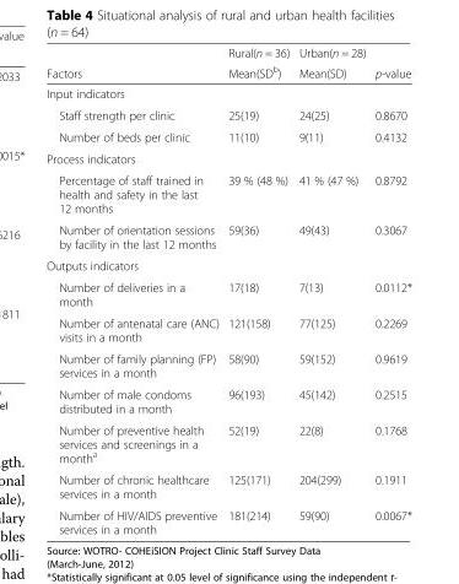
<table><thead><tr><td rowspan="2">Factors</td><td rowspan="2">Rural(n = 36) Mean(SD<sup>b</sup>)</td><td rowspan="2">Urban(n = 28) Mean(SD)</td><td rowspan="2">p-value</td></tr><tr></tr></thead><tbody><tr><td colspan="4">Input indicators</td></tr><tr><td>Staff strength per clinic</td><td>25(19)</td><td>24(25)</td><td>0.8670</td></tr><tr><td>Number of beds per clinic</td><td>11(10)</td><td>9(11)</td><td>0.4132</td></tr><tr><td colspan="4">Process indicators</td></tr><tr><td>Percentage of staff trained in health and safety in the last 12 months</td><td>39 % (48 %)</td><td>41 % (47 %)</td><td>0.8792</td></tr><tr><td>Number of orientation sessions by facility in the last 12 months</td><td>59(36)</td><td>49(43)</td><td>0.3067</td></tr><tr><td colspan="4">Outputs indicators</td></tr><tr><td>Number of deliveries in a month</td><td>17(18)</td><td>7(13)</td><td>0.0112*</td></tr><tr><td>Number of antenatal care (ANC) visits in a month</td><td>121(158)</td><td>77(125)</td><td>0.2269</td></tr><tr><td>Number of family planning (FP) services in a month</td><td>58(90)</td><td>59(152)</td><td>0.9619</td></tr><tr><td>Number of male condoms distributed in a month</td><td>96(193)</td><td>45(142)</td><td>0.2515</td></tr><tr><td>Number of preventive health services and screenings in a month<sup>a</sup></td><td>52(19)</td><td>22(8)</td><td>0.1768</td></tr><tr><td>Number of chronic healthcare services in a month</td><td>125(171)</td><td>204(299)</td><td>0.1911</td></tr><tr><td>Number of HIV/AIDS preventive services in a month</td><td>181(214)</td><td>59(90)</td><td>0.0067*</td></tr></tbody></table>